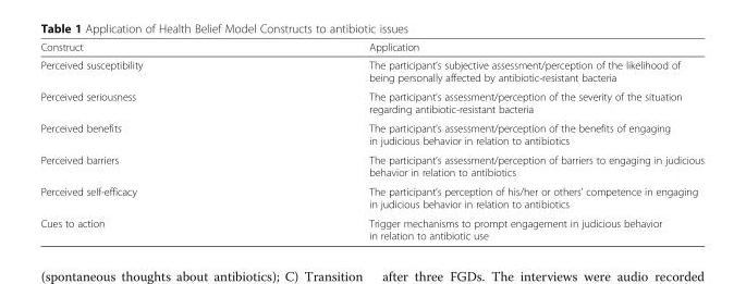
<table><thead><tr><td>Construct</td><td>Application</td></tr></thead><tbody><tr><td>Perceived susceptibility</td><td>The participant’s subjective assessment/perception of the likelihood of being personally affected by antibiotic-resistant bacteria</td></tr><tr><td>Perceived seriousness</td><td>The participant’s assessment/perception of the severity of the situation regarding antibiotic-resistant bacteria</td></tr><tr><td>Perceived benefits</td><td>The participant’s assessment/perception of the benefits of engaging in judicious behavior in relation to antibiotics</td></tr><tr><td>Perceived barriers</td><td>The participant’s assessment/perception of barriers to engaging in judicious behavior in relation to antibiotics</td></tr><tr><td>Perceived self-efficacy</td><td>The participant’s perception of his/her or others’ competence in engaging in judicious behavior in relation to antibiotics</td></tr><tr><td>Cues to action</td><td>Trigger mechanisms to prompt engagement in judicious behavior in relation to antibiotic use</td></tr></tbody></table>